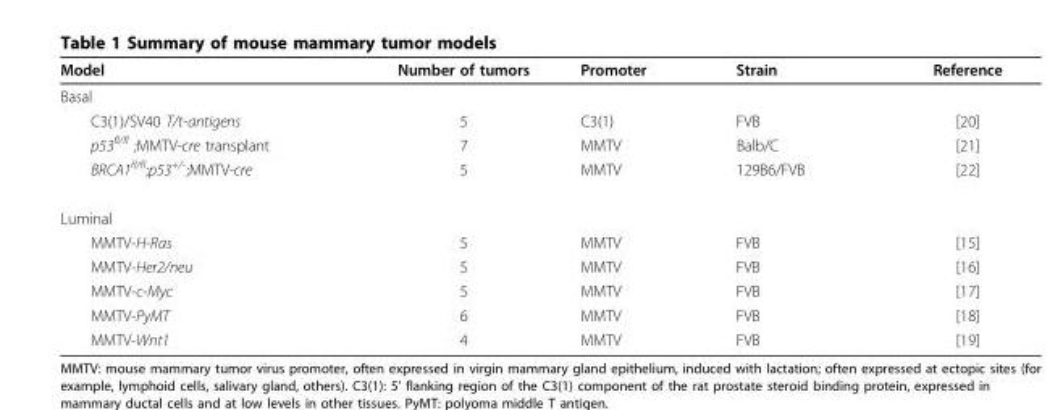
<table><thead><tr><td>Model</td><td>Number of tumors</td><td>Promoter</td><td>Strain</td><td>Reference</td></tr></thead><tbody><tr><td colspan="5">Basal</td></tr><tr><td>C3(1)/SV40 T/t-antigens</td><td>5</td><td>C3(1)</td><td>FVB</td><td>[20]</td></tr><tr><td>p53<sup>fl/fl</sup> ;MMTV-cre transplant</td><td>7</td><td>MMTV</td><td>Balb/C</td><td>[21]</td></tr><tr><td>BRCA1<sup>fl/fl</sup>;p53<sup>+/-</sup>;MMTV-cre</td><td>5</td><td>MMTV</td><td>129B6/FVB</td><td>[22]</td></tr><tr><td colspan="5">Luminal</td></tr><tr><td>MMTV-H-Ras</td><td>5</td><td>MMTV</td><td>FVB</td><td>[15]</td></tr><tr><td>MMTV-Her2/neu</td><td>5</td><td>MMTV</td><td>FVB</td><td>[16]</td></tr><tr><td>MMTV-c-Myc</td><td>5</td><td>MMTV</td><td>FVB</td><td>[17]</td></tr><tr><td>MMTV-PyMT</td><td>6</td><td>MMTV</td><td>FVB</td><td>[18]</td></tr><tr><td>MMTV-Wnt1</td><td>4</td><td>MMTV</td><td>FVB</td><td>[19]</td></tr></tbody></table>